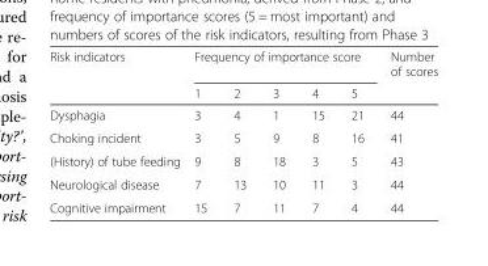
<table><thead><tr><td rowspan="2">Risk indicators</td><td colspan="5">Frequency of importance score</td><td rowspan="2">Number of scores</td></tr><tr><td>1</td><td>2</td><td>3</td><td>4</td><td>5</td></tr></thead><tbody><tr><td>Dysphagia</td><td>3</td><td>4</td><td>1</td><td>15</td><td>21</td><td>44</td></tr><tr><td>Choking incident</td><td>3</td><td>5</td><td>9</td><td>8</td><td>16</td><td>41</td></tr><tr><td>(History) of tube feeding</td><td>9</td><td>8</td><td>18</td><td>3</td><td>5</td><td>43</td></tr><tr><td>Neurological disease</td><td>7</td><td>13</td><td>10</td><td>11</td><td>3</td><td>44</td></tr><tr><td>Cognitive impairment</td><td>15</td><td>7</td><td>11</td><td>7</td><td>4</td><td>44</td></tr></tbody></table>